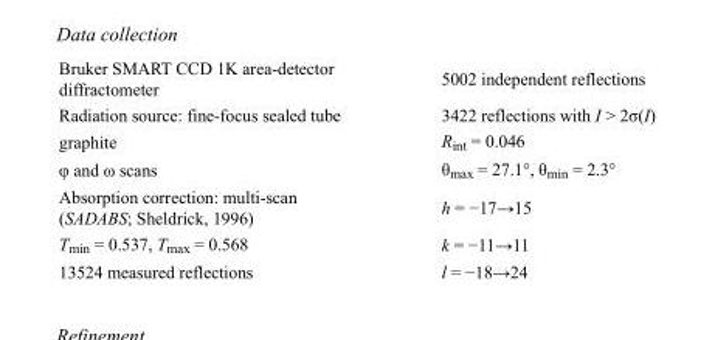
<table><tbody><tr><td>Bruker SMART CCD 1K area-detector diffractometer</td><td>5002 independent reflections</td></tr><tr><td>Radiation source: fine-focus sealed tube</td><td>3422 reflections with I &gt; 2σ(I)</td></tr><tr><td>graphite</td><td>R<sub>int</sub> = 0.046</td></tr><tr><td>φ and ω scans</td><td>θ<sub>max</sub> = 27.1°, θ<sub>min</sub> = 2.3°</td></tr><tr><td>Absorption correction: multi-scan (SADABS; Sheldrick, 1996)</td><td>h = −17→15</td></tr><tr><td>T<sub>min</sub> = 0.537, T<sub>max</sub> = 0.568</td><td>k = −11→11</td></tr><tr><td>13524 measured reflections</td><td>l = −18→24</td></tr></tbody></table>